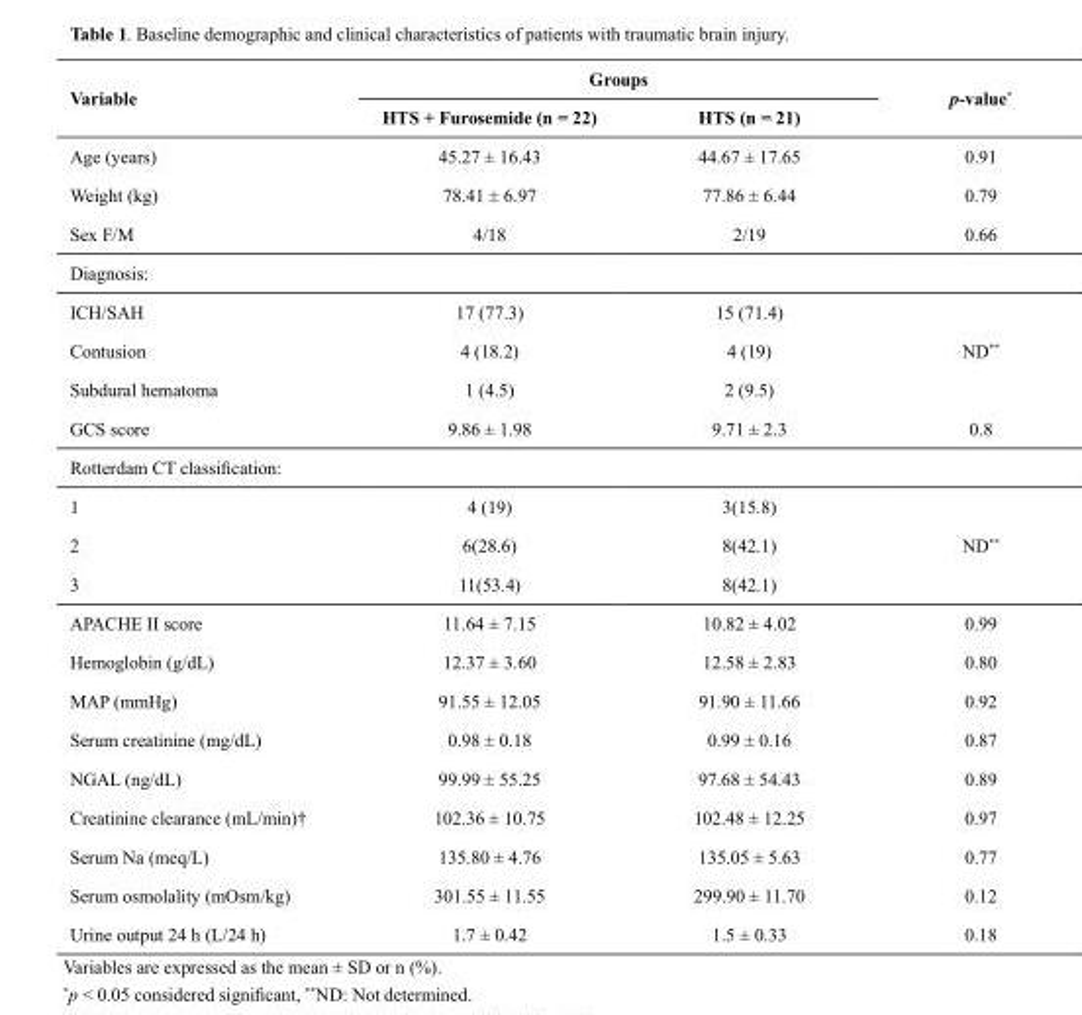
<table><thead><tr><td rowspan="2">Variable</td><td colspan="2">Groups</td><td rowspan="2">p-value*</td></tr><tr><td>HTS + Furosemide (n = 22)</td><td>HTS (n = 21)</td></tr></thead><tbody><tr><td>Age (years)</td><td>45.27 ± 16.43</td><td>44.67 ± 17.65</td><td>0.91</td></tr><tr><td>Weight (kg)</td><td>78.41 ± 6.97</td><td>77.86 ± 6.44</td><td>0.79</td></tr><tr><td>Sex F/M</td><td>4/18</td><td>2/19</td><td>0.66</td></tr><tr><td colspan="4">Diagnosis:</td></tr><tr><td>ICH/SAH</td><td>17 (77.3)</td><td>15 (71.4)</td><td rowspan="3">ND**</td></tr><tr><td>Contusion</td><td>4 (18.2)</td><td>4 (19)</td></tr><tr><td>Subdural hematoma</td><td>1 (4.5)</td><td>2 (9.5)</td></tr><tr><td>GCS score</td><td>9.86 ± 1.98</td><td>9.71 ± 2.3</td><td>0.8</td></tr><tr><td colspan="3">Rotterdam CT classification:</td><td rowspan="4">ND**</td></tr><tr><td>1</td><td>4 (19)</td><td>3(15.8)</td></tr><tr><td>2</td><td>6(28.6)</td><td>8(42.1)</td></tr><tr><td>3</td><td>11(53.4)</td><td>8(42.1)</td></tr><tr><td>APACHE II score</td><td>11.64 ± 7.15</td><td>10.82 ± 4.02</td><td>0.99</td></tr><tr><td>Hemoglobin (g/dL)</td><td>12.37 ± 3.60</td><td>12.58 ± 2.83</td><td>0.80</td></tr><tr><td>MAP (mmHg)</td><td>91.55 ± 12.05</td><td>91.90 ± 11.66</td><td>0.92</td></tr><tr><td>Serum creatinine (mg/dL)</td><td>0.98 ± 0.18</td><td>0.99 ± 0.16</td><td>0.87</td></tr><tr><td>NGAL (ng/dL)</td><td>99.99 ± 55.25</td><td>97.68 ± 54.43</td><td>0.89</td></tr><tr><td>Creatinine clearance (mL/min)†</td><td>102.36 ± 10.75</td><td>102.48 ± 12.25</td><td>0.97</td></tr><tr><td>Serum Na (meq/L)</td><td>135.80 ± 4.76</td><td>135.05 ± 5.63</td><td>0.77</td></tr><tr><td>Serum osmolality (mOsm/kg)</td><td>301.55 ± 11.55</td><td>299.90 ± 11.70</td><td>0.12</td></tr><tr><td>Urine output 24 h (L/24 h)</td><td>1.7 ± 0.42</td><td>1.5 ± 0.33</td><td>0.18</td></tr></tbody></table>